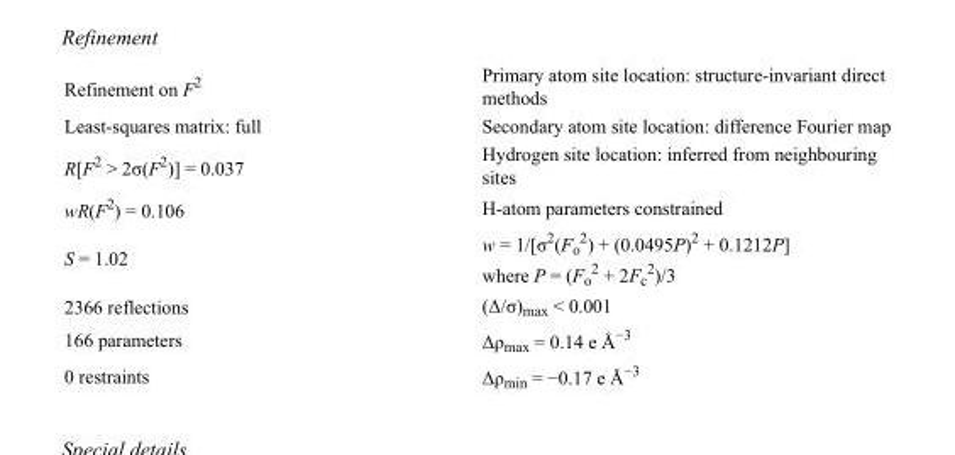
<table><tbody><tr><td>Refinement on F<sup>2</sup></td><td>Primary atom site location: structure-invariant direct methods</td></tr><tr><td>Least-squares matrix: full</td><td>Secondary atom site location: difference Fourier map</td></tr><tr><td>R[F<sup>2</sup> &gt; 2σ(F<sup>2</sup>)] = 0.037</td><td>Hydrogen site location: inferred from neighbouring sites</td></tr><tr><td>wR(F<sup>2</sup>) = 0.106</td><td>H-atom parameters constrained</td></tr><tr><td>S = 1.02</td><td>w = 1/[σ<sup>2</sup>(F<sub>o</sub> <sup>2</sup>) + (0.0495P)<sup>2</sup> + 0.1212P] where P = (F<sub>o</sub> <sup>2</sup> + 2F<sub>c</sub> <sup>2</sup>)/3</td></tr><tr><td>2366 reflections</td><td>(Δ/σ)<sub>max</sub> &lt; 0.001</td></tr><tr><td>166 parameters</td><td>Δρ<sub>max</sub> = 0.14 e Å<sup>−3</sup></td></tr><tr><td>0 restraints</td><td>Δρ<sub>min</sub> = −0.17 e Å<sup>−3</sup></td></tr></tbody></table>